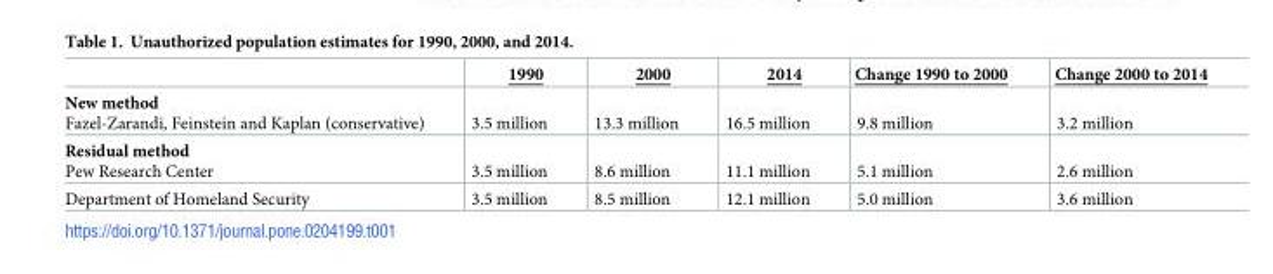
<table><thead><tr><td></td><td>1990</td><td>2000</td><td>2014</td><td>Change 1990 to 2000</td><td>Change 2000 to 2014</td></tr></thead><tbody><tr><td>New method Fazel-Zarandi, Feinstein and Kaplan (conservative)</td><td>3.5 million</td><td>13.3 million</td><td>16.5 million</td><td>9.8 million</td><td>3.2 million</td></tr><tr><td>Residual method Pew Research Center</td><td>3.5 million</td><td>8.6 million</td><td>11.1 million</td><td>5.1 million</td><td>2.6 million</td></tr><tr><td>Department of Homeland Security</td><td>3.5 million</td><td>8.5 million</td><td>12.1 million</td><td>5.0 million</td><td>3.6 million</td></tr></tbody></table>